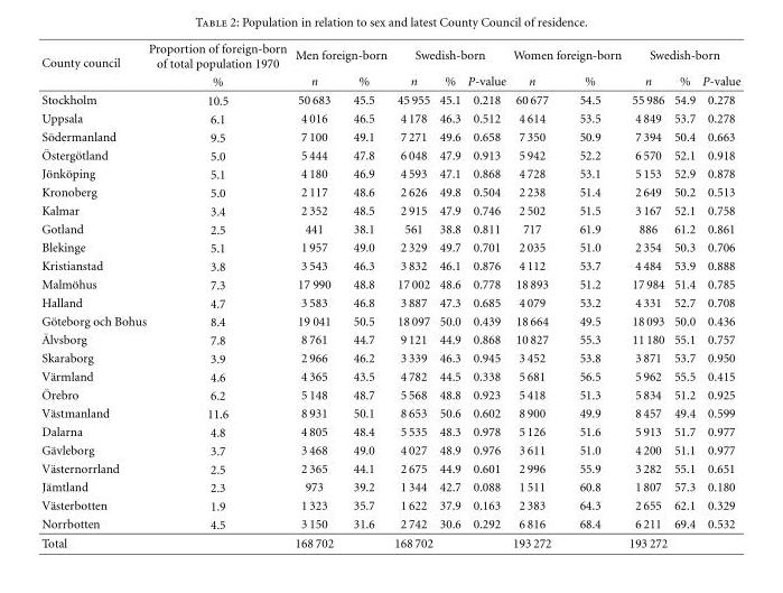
<table><thead><tr><td rowspan="2">County council</td><td rowspan="2">Proportion of foreign-born of total population 1970 %</td><td colspan="2">Men foreign-born</td><td colspan="3">Swedish-born</td><td colspan="2">Women foreign-born</td><td colspan="3">Swedish-born</td></tr><tr><td>n</td><td>%</td><td>n</td><td>%</td><td>P-value</td><td>n</td><td>%</td><td>n</td><td>%</td><td>P-value</td></tr></thead><tbody><tr><td>Stockholm</td><td>10.5</td><td>50 683</td><td>45.5</td><td>45 955</td><td>45.1</td><td>0.218</td><td>60 677</td><td>54.5</td><td>55 986</td><td>54.9</td><td>0.278</td></tr><tr><td>Uppsala</td><td>6.1</td><td>4 016</td><td>46.5</td><td>4 178</td><td>46.3</td><td>0.512</td><td>4 614</td><td>53.5</td><td>4 849</td><td>53.7</td><td>0.278</td></tr><tr><td>S¨odermanland</td><td>9.5</td><td>7 100</td><td>49.1</td><td>7 271</td><td>49.6</td><td>0.658</td><td>7 350</td><td>50.9</td><td>7 394</td><td>50.4</td><td>0.663</td></tr><tr><td>¨Osterg¨otland</td><td>5.0</td><td>5 444</td><td>47.8</td><td>6 048</td><td>47.9</td><td>0.913</td><td>5 942</td><td>52.2</td><td>6 570</td><td>52.1</td><td>0.918</td></tr><tr><td>J¨onk¨oping</td><td>5.1</td><td>4 180</td><td>46.9</td><td>4 593</td><td>47.1</td><td>0.868</td><td>4 728</td><td>53.1</td><td>5 153</td><td>52.9</td><td>0.878</td></tr><tr><td>Kronoberg</td><td>5.0</td><td>2 117</td><td>48.6</td><td>2 626</td><td>49.8</td><td>0.504</td><td>2 238</td><td>51.4</td><td>2 649</td><td>50.2</td><td>0.513</td></tr><tr><td>Kalmar</td><td>3.4</td><td>2 352</td><td>48.5</td><td>2 915</td><td>47.9</td><td>0.746</td><td>2 502</td><td>51.5</td><td>3 167</td><td>52.1</td><td>0.758</td></tr><tr><td>Gotland</td><td>2.5</td><td>441</td><td>38.1</td><td>561</td><td>38.8</td><td>0.811</td><td>717</td><td>61.9</td><td>886</td><td>61.2</td><td>0.861</td></tr><tr><td>Blekinge</td><td>5.1</td><td>1 957</td><td>49.0</td><td>2 329</td><td>49.7</td><td>0.701</td><td>2 035</td><td>51.0</td><td>2 354</td><td>50.3</td><td>0.706</td></tr><tr><td>Kristianstad</td><td>3.8</td><td>3 543</td><td>46.3</td><td>3 832</td><td>46.1</td><td>0.876</td><td>4 112</td><td>53.7</td><td>4 484</td><td>53.9</td><td>0.888</td></tr><tr><td>Malm¨ohus</td><td>7.3</td><td>17 990</td><td>48.8</td><td>17 002</td><td>48.6</td><td>0.778</td><td>18 893</td><td>51.2</td><td>17 984</td><td>51.4</td><td>0.785</td></tr><tr><td>Halland</td><td>4.7</td><td>3 583</td><td>46.8</td><td>3 887</td><td>47.3</td><td>0.685</td><td>4 079</td><td>53.2</td><td>4 331</td><td>52.7</td><td>0.708</td></tr><tr><td>G¨oteborg och Bohus</td><td>8.4</td><td>19 041</td><td>50.5</td><td>18 097</td><td>50.0</td><td>0.439</td><td>18 664</td><td>49.5</td><td>18 093</td><td>50.0</td><td>0.436</td></tr><tr><td>¨Alvsborg</td><td>7.8</td><td>8 761</td><td>44.7</td><td>9 121</td><td>44.9</td><td>0.868</td><td>10 827</td><td>55.3</td><td>11 180</td><td>55.1</td><td>0.757</td></tr><tr><td>Skaraborg</td><td>3.9</td><td>2 966</td><td>46.2</td><td>3 339</td><td>46.3</td><td>0.945</td><td>3 452</td><td>53.8</td><td>3 871</td><td>53.7</td><td>0.950</td></tr><tr><td>V¨armland</td><td>4.6</td><td>4 365</td><td>43.5</td><td>4 782</td><td>44.5</td><td>0.338</td><td>5 681</td><td>56.5</td><td>5 962</td><td>55.5</td><td>0.415</td></tr><tr><td>¨Orebro</td><td>6.2</td><td>5 148</td><td>48.7</td><td>5 568</td><td>48.8</td><td>0.923</td><td>5 418</td><td>51.3</td><td>5 834</td><td>51.2</td><td>0.925</td></tr><tr><td>V¨astmanland</td><td>11.6</td><td>8 931</td><td>50.1</td><td>8 653</td><td>50.6</td><td>0.602</td><td>8 900</td><td>49.9</td><td>8 457</td><td>49.4</td><td>0.599</td></tr><tr><td>Dalarna</td><td>4.8</td><td>4 805</td><td>48.4</td><td>5 535</td><td>48.3</td><td>0.978</td><td>5 126</td><td>51.6</td><td>5 913</td><td>51.7</td><td>0.977</td></tr><tr><td>G¨avleborg</td><td>3.7</td><td>3 468</td><td>49.0</td><td>4 027</td><td>48.9</td><td>0.976</td><td>3 611</td><td>51.0</td><td>4 200</td><td>51.1</td><td>0.977</td></tr><tr><td>V¨asternorrland</td><td>2.5</td><td>2 365</td><td>44.1</td><td>2 675</td><td>44.9</td><td>0.601</td><td>2 996</td><td>55.9</td><td>3 282</td><td>55.1</td><td>0.651</td></tr><tr><td>J¨amtland</td><td>2.3</td><td>973</td><td>39.2</td><td>1 344</td><td>42.7</td><td>0.088</td><td>1 511</td><td>60.8</td><td>1 807</td><td>57.3</td><td>0.180</td></tr><tr><td>V¨asterbotten</td><td>1.9</td><td>1 323</td><td>35.7</td><td>1 622</td><td>37.9</td><td>0.163</td><td>2 383</td><td>64.3</td><td>2 655</td><td>62.1</td><td>0.329</td></tr><tr><td>Norrbotten</td><td>4.5</td><td>3 150</td><td>31.6</td><td>2 742</td><td>30.6</td><td>0.292</td><td>6 816</td><td>68.4</td><td>6 211</td><td>69.4</td><td>0.532</td></tr><tr><td>Total</td><td></td><td>168 702</td><td></td><td>168 702</td><td></td><td></td><td>193 272</td><td></td><td>193 272</td><td></td><td></td></tr></tbody></table>